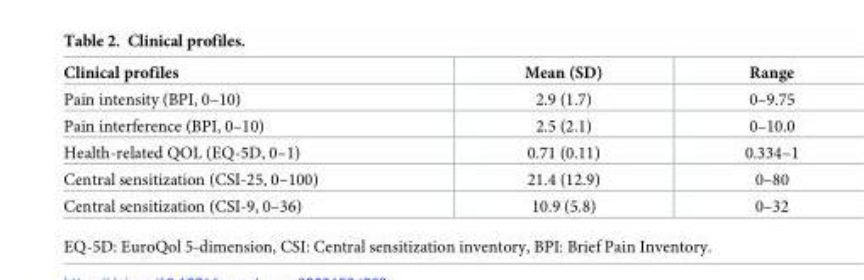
<table><thead><tr><td>Clinical profiles</td><td>Mean (SD)</td><td>Range</td></tr></thead><tbody><tr><td>Pain intensity (BPI, 0–10)</td><td>2.9 (1.7)</td><td>0–9.75</td></tr><tr><td>Pain interference (BPI, 0–10)</td><td>2.5 (2.1)</td><td>0–10.0</td></tr><tr><td>Health-related QOL (EQ-5D, 0–1)</td><td>0.71 (0.11)</td><td>0.334–1</td></tr><tr><td>Central sensitization (CSI-25, 0–100)</td><td>21.4 (12.9)</td><td>0–80</td></tr><tr><td>Central sensitization (CSI-9, 0–36)</td><td>10.9 (5.8)</td><td>0–32</td></tr></tbody></table>